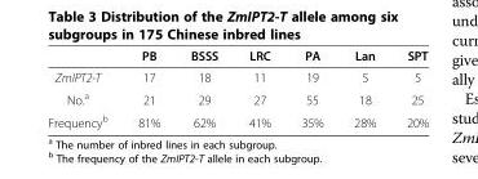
<table><thead><tr><td></td><td>PB</td><td>BSSS</td><td>LRC</td><td>PA</td><td>Lan</td><td>SPT</td></tr></thead><tbody><tr><td>ZmIPT2-T</td><td>17</td><td>18</td><td>11</td><td>19</td><td>5</td><td>5</td></tr><tr><td>No.<sup>a</sup></td><td>21</td><td>29</td><td>27</td><td>55</td><td>18</td><td>25</td></tr><tr><td>Frequency<sup>b</sup></td><td>81%</td><td>62%</td><td>41%</td><td>35%</td><td>28%</td><td>20%</td></tr></tbody></table>